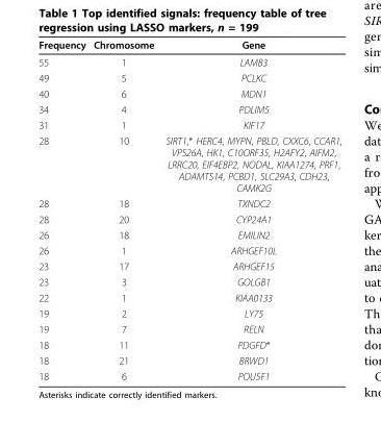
<table><thead><tr><td>Frequency</td><td>Chromosome</td><td>Gene</td></tr></thead><tbody><tr><td>55</td><td>1</td><td>LAMB3</td></tr><tr><td>49</td><td>5</td><td>PCLKC</td></tr><tr><td>40</td><td>6</td><td>MDN1</td></tr><tr><td>34</td><td>4</td><td>PDLIM5</td></tr><tr><td>31</td><td>1</td><td>KIF17</td></tr><tr><td>28</td><td>10</td><td>SIRT1,* HERC4, MYPN, PBLD, CXXC6, CCAR1, VPS26A, HK1, C10ORF35, H2AFY2, AIFM2, LRRC20, EIF4EBP2, NODAL, KIAA1274, PRF1, ADAMTS14, PCBD1, SLC29A3, CDH23, CAMK2G</td></tr><tr><td>28</td><td>18</td><td>TXNDC2</td></tr><tr><td>28</td><td>20</td><td>CYP24A1</td></tr><tr><td>26</td><td>18</td><td>EMILIN2</td></tr><tr><td>26</td><td>1</td><td>ARHGEF10L</td></tr><tr><td>23</td><td>17</td><td>ARHGEF15</td></tr><tr><td>23</td><td>3</td><td>GOLGB1</td></tr><tr><td>22</td><td>1</td><td>KIAA0133</td></tr><tr><td>19</td><td>2</td><td>LY75</td></tr><tr><td>19</td><td>7</td><td>RELN</td></tr><tr><td>18</td><td>11</td><td>PDGFD*</td></tr><tr><td>18</td><td>21</td><td>BRWD1</td></tr><tr><td>18</td><td>6</td><td>POU5F1</td></tr></tbody></table>